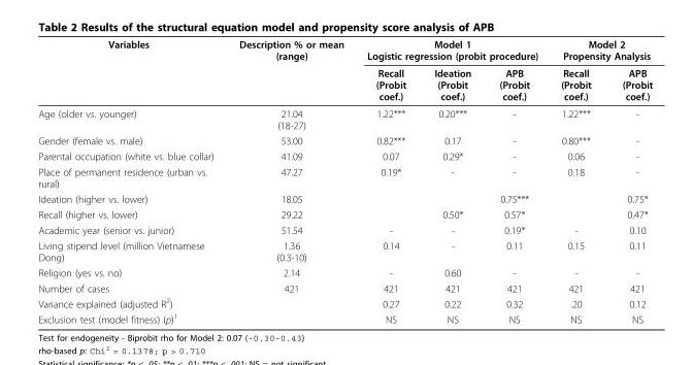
<table><thead><tr><td rowspan="2">Variables</td><td rowspan="2">Description % or mean (range)</td><td colspan="3">Model 1 Logistic regression (probit procedure)</td><td colspan="2">Model 2 Propensity Analysis</td></tr><tr><td>Recall (Probit coef.)</td><td>Ideation (Probit coef.)</td><td>APB (Probit coef.)</td><td>Recall (Probit coef.)</td><td>APB (Probit coef.)</td></tr></thead><tbody><tr><td>Age (older vs. younger)</td><td>21.04 (18-27)</td><td>1.22***</td><td>0.20***</td><td>-</td><td>1.22***</td><td>-</td></tr><tr><td>Gender (female vs. male)</td><td>53.00</td><td>0.82***</td><td>0.17</td><td>-</td><td>0.80***</td><td>-</td></tr><tr><td>Parental occupation (white vs. blue collar)</td><td>41.09</td><td>0.07</td><td>0.29*</td><td>-</td><td>0.06</td><td>-</td></tr><tr><td>Place of permanent residence (urban vs. rural)</td><td>47.27</td><td>0.19*</td><td>-</td><td>-</td><td>0.18</td><td>-</td></tr><tr><td>Ideation (higher vs. lower)</td><td>18.05</td><td></td><td></td><td>0.75***</td><td></td><td>0.75*</td></tr><tr><td>Recall (higher vs. lower)</td><td>29.22</td><td></td><td>0.50*</td><td>0.57*</td><td></td><td>0.47*</td></tr><tr><td>Academic year (senior vs. junior)</td><td>51.54</td><td>-</td><td>-</td><td>0.19*</td><td>-</td><td>0.10</td></tr><tr><td>Living stipend level (million Vietnamese Dong)</td><td>1.36 (0.3-10)</td><td>0.14</td><td>-</td><td>0.11</td><td>0.15</td><td>0.11</td></tr><tr><td>Religion (yes vs. no)</td><td>2.14</td><td>-</td><td>0.60</td><td>-</td><td>-</td><td>-</td></tr><tr><td>Number of cases</td><td>421</td><td>421</td><td>421</td><td>421</td><td>421</td><td>421</td></tr><tr><td>Variance explained (adjusted R<sup>2</sup>)</td><td></td><td>0.27</td><td>0.22</td><td>0.32</td><td>.20</td><td>0.12</td></tr><tr><td>Exclusion test (model fitness) (p)<sup>1</sup></td><td></td><td>NS</td><td>NS</td><td>NS</td><td>NS</td><td>NS</td></tr></tbody></table>